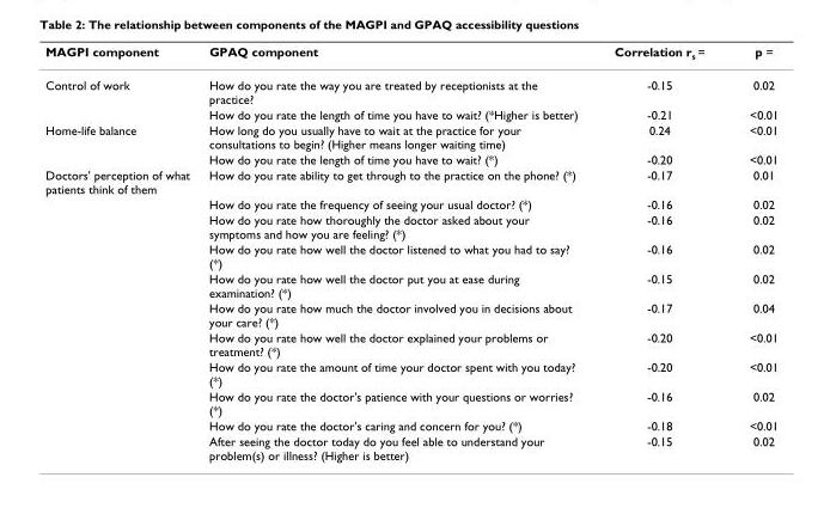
<table><thead><tr><td>MAGPI component</td><td>GPAQ component</td><td>Correlation r<sub>s</sub> =</td><td>p =</td></tr></thead><tbody><tr><td rowspan="2">Control of work</td><td>How do you rate the way you are treated by receptionists at the practice?</td><td>-0.15</td><td>0.02</td></tr><tr><td>How do you rate the length of time you have to wait? (*Higher is better)</td><td>-0.21</td><td>&lt;0.01</td></tr><tr><td rowspan="2">Home-life balance</td><td>How long do you usually have to wait at the practice for your consultations to begin? (Higher means longer waiting time)</td><td>0.24</td><td>&lt;0.01</td></tr><tr><td>How do you rate the length of time you have to wait? (*)</td><td>-0.20</td><td>&lt;0.01</td></tr><tr><td rowspan="11">Doctors&#x27; perception of what patients think of them</td><td>How do you rate ability to get through to the practice on the phone? (*)</td><td>-0.17</td><td>0.01</td></tr><tr><td>How do you rate the frequency of seeing your usual doctor? (*)</td><td>-0.16</td><td>0.02</td></tr><tr><td>How do you rate how thoroughly the doctor asked about your symptoms and how you are feeling? (*)</td><td>-0.16</td><td>0.02</td></tr><tr><td>How do you rate how well the doctor listened to what you had to say? (*)</td><td>-0.16</td><td>0.02</td></tr><tr><td>How do you rate how well the doctor put you at ease during examination? (*)</td><td>-0.15</td><td>0.02</td></tr><tr><td>How do you rate how much the doctor involved you in decisions about your care? (*)</td><td>-0.17</td><td>0.04</td></tr><tr><td>How do you rate how well the doctor explained your problems or treatment? (*)</td><td>-0.20</td><td>&lt;0.01</td></tr><tr><td>How do you rate the amount of time your doctor spent with you today? (*)</td><td>-0.20</td><td>&lt;0.01</td></tr><tr><td>How do you rate the doctor&#x27;s patience with your questions or worries? (*)</td><td>-0.16</td><td>0.02</td></tr><tr><td>How do you rate the doctor&#x27;s caring and concern for you? (*)</td><td>-0.18</td><td>&lt;0.01</td></tr><tr><td>After seeing the doctor today do you feel able to understand your problem(s) or illness? (Higher is better)</td><td>-0.15</td><td>0.02</td></tr></tbody></table>